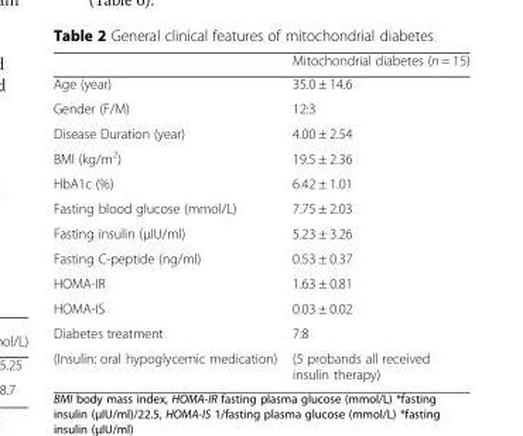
<table><thead><tr><td></td><td>Mitochondrial diabetes (n = 15)</td></tr></thead><tbody><tr><td>Age (year)</td><td>35.0 ± 14.6</td></tr><tr><td>Gender (F/M)</td><td>12:3</td></tr><tr><td>Disease Duration (year)</td><td>4.00 ± 2.54</td></tr><tr><td>BMI (kg/m<sup>2</sup>)</td><td>19.5 ± 2.36</td></tr><tr><td>HbA1c (%)</td><td>6.42 ± 1.01</td></tr><tr><td>Fasting blood glucose (mmol/L)</td><td>7.75 ± 2.03</td></tr><tr><td>Fasting insulin (μIU/ml)</td><td>5.23 ± 3.26</td></tr><tr><td>Fasting C-peptide (ng/ml)</td><td>0.53 ± 0.37</td></tr><tr><td>HOMA-IR</td><td>1.63 ± 0.81</td></tr><tr><td>HOMA-IS</td><td>0.03 ± 0.02</td></tr><tr><td>Diabetes treatment</td><td>7:8</td></tr><tr><td>(Insulin: oral hypoglycemic medication)</td><td>(5 probands all received insulin therapy)</td></tr></tbody></table>